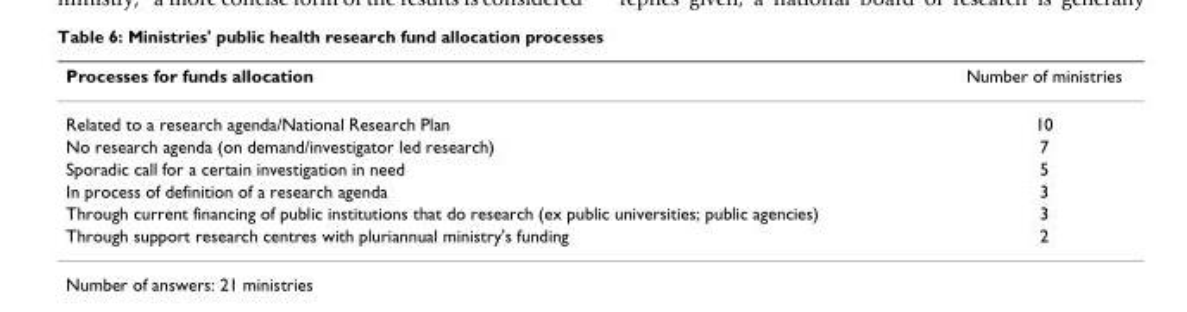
<table><thead><tr><td>Processes for funds allocation</td><td>Number of ministries</td></tr></thead><tbody><tr><td>Related to a research agenda/National Research Plan</td><td>10</td></tr><tr><td>No research agenda (on demand/investigator led research)</td><td>7</td></tr><tr><td>Sporadic call for a certain investigation in need</td><td>5</td></tr><tr><td>In process of definition of a research agenda</td><td>3</td></tr><tr><td>Through current financing of public institutions that do research (ex public universities; public agencies)</td><td>3</td></tr><tr><td>Through support research centres with pluriannual ministry&#x27;s funding</td><td>2</td></tr></tbody></table>